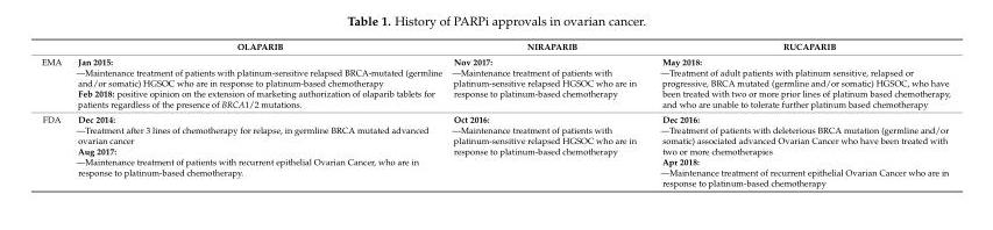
<table><thead><tr><td></td><td>OLAPARIB</td><td>NIRAPARIB</td><td>RUCAPARIB</td></tr></thead><tbody><tr><td>EMA</td><td>Jan 2015: —Maintenance treatment of patients with platinum-sensitive relapsed BRCA-mutated (germline and/or somatic) HGSOC who are in response to platinum-based chemotherapy Feb 2018: positive opinion on the extension of marketing authorization of olaparib tablets for patients regardless of the presence of BRCA1/2 mutations.</td><td>Nov 2017: —Maintenance treatment of patients with platinum-sensitive relapsed HGSOC who are in response to platinum-based chemotherapy</td><td>May 2018: —Treatment of adult patients with platinum sensitive, relapsed or progressive, BRCA mutated (germline and/or somatic) HGSOC, who have been treated with two or more prior lines of platinum based chemotherapy, and who are unable to tolerate further platinum based chemotherapy</td></tr><tr><td>FDA</td><td>Dec 2014: —Treatment after 3 lines of chemotherapy for relapse, in germline BRCA mutated advanced ovarian cancer Aug 2017: —Maintenance treatment of patients with recurrent epithelial Ovarian Cancer, who are in response to platinum-based chemotherapy.</td><td>Oct 2016: —Maintenance treatment of patients with platinum-sensitive relapsed HGSOC who are in response to platinum-based chemotherapy</td><td>Dec 2016: —Treatment of patients with deleterious BRCA mutation (germline and/or somatic) associated advanced Ovarian Cancer who have been treated with two or more chemotherapies Apr 2018: —Maintenance treatment of recurrent epithelial Ovarian Cancer who are in response to platinum-based chemotherapy</td></tr></tbody></table>